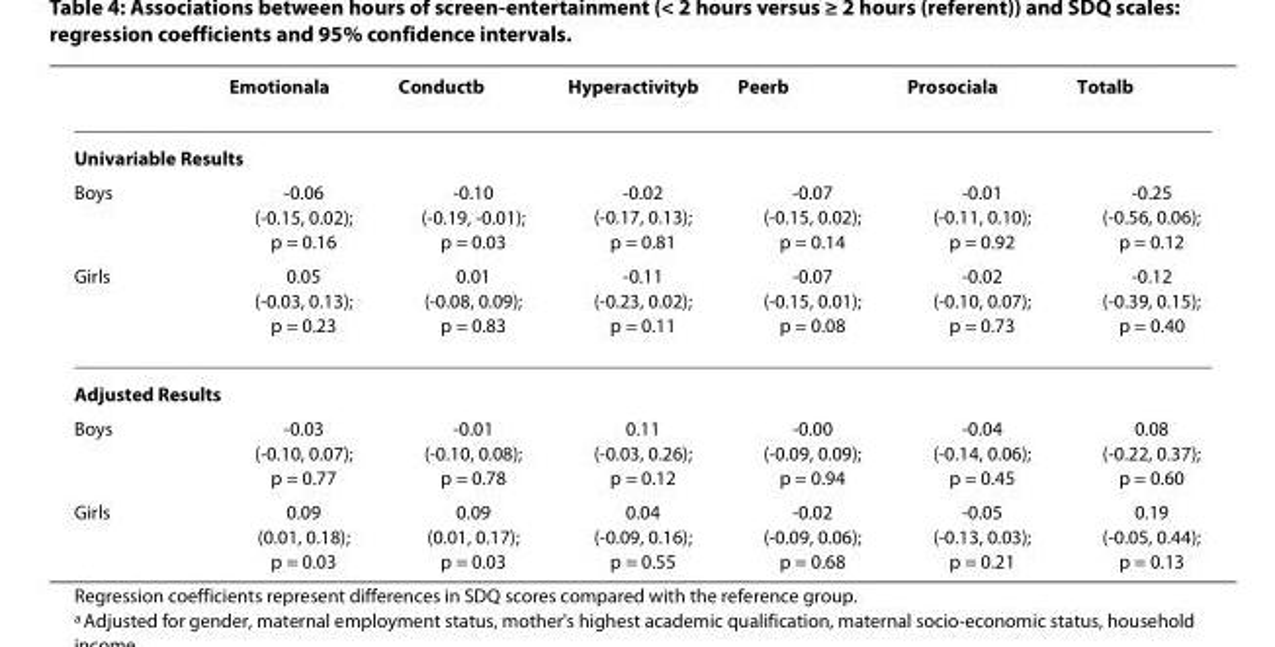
<table><thead><tr><td></td><td>Emotional<sup>a</sup></td><td>Conduct<sup>b</sup></td><td>Hyperactivity<sup>b</sup></td><td>Peer<sup>b</sup></td><td>Prosocial<sup>a</sup></td><td>Total<sup>b</sup></td></tr></thead><tbody><tr><td colspan="7">Univariable Results</td></tr><tr><td>Boys</td><td>-0.06 (-0.15, 0.02); p = 0.16</td><td>-0.10 (-0.19, -0.01); p = 0.03</td><td>-0.02 (-0.17, 0.13); p = 0.81</td><td>-0.07 (-0.15, 0.02); p = 0.14</td><td>-0.01 (-0.11, 0.10); p = 0.92</td><td>-0.25 (-0.56, 0.06); p = 0.12</td></tr><tr><td>Girls</td><td>0.05 (-0.03, 0.13); p = 0.23</td><td>0.01 (-0.08, 0.09); p = 0.83</td><td>-0.11 (-0.23, 0.02); p = 0.11</td><td>-0.07 (-0.15, 0.01); p = 0.08</td><td>-0.02 (-0.10, 0.07); p = 0.73</td><td>-0.12 (-0.39, 0.15); p = 0.40</td></tr><tr><td colspan="7">Adjusted Results</td></tr><tr><td>Boys</td><td>-0.03 (-0.10, 0.07); p = 0.77</td><td>-0.01 (-0.10, 0.08); p = 0.78</td><td>0.11 (-0.03, 0.26); p = 0.12</td><td>-0.00 (-0.09, 0.09); p = 0.94</td><td>-0.04 (-0.14, 0.06); p = 0.45</td><td>0.08 (-0.22, 0.37); p = 0.60</td></tr><tr><td>Girls</td><td>0.09 (0.01, 0.18); p = 0.03</td><td>0.09 (0.01, 0.17); p = 0.03</td><td>0.04 (-0.09, 0.16); p = 0.55</td><td>-0.02 (-0.09, 0.06); p = 0.68</td><td>-0.05 (-0.13, 0.03); p = 0.21</td><td>0.19 (-0.05, 0.44); p = 0.13</td></tr></tbody></table>